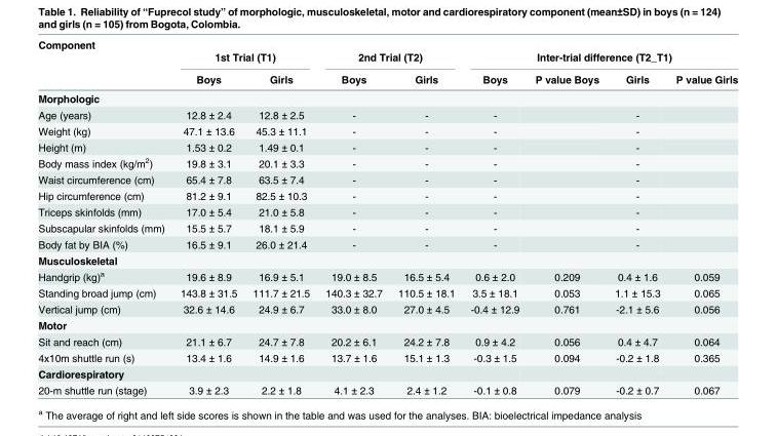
<table><thead><tr><td rowspan="3">Component</td><td></td><td></td><td></td><td></td><td></td><td></td><td></td><td></td></tr><tr><td colspan="2">1st Trial (T1)</td><td colspan="2">2nd Trial (T2)</td><td colspan="4">Inter-trial difference (T2_T1)</td></tr><tr><td>Boys</td><td>Girls</td><td>Boys</td><td>Girls</td><td>Boys</td><td>P value Boys</td><td>Girls</td><td>P value Girls</td></tr></thead><tbody><tr><td colspan="9">Morphologic</td></tr><tr><td>Age (years)</td><td>12.8 ± 2.4</td><td>12.8 ± 2.5</td><td>-</td><td>-</td><td>-</td><td></td><td>-</td><td></td></tr><tr><td>Weight (kg)</td><td>47.1 ± 13.6</td><td>45.3 ± 11.1</td><td>-</td><td>-</td><td>-</td><td></td><td>-</td><td></td></tr><tr><td>Height (m)</td><td>1.53 ± 0.2</td><td>1.49 ± 0.1</td><td>-</td><td>-</td><td>-</td><td></td><td>-</td><td></td></tr><tr><td>Body mass index (kg/m<sup>2</sup>)</td><td>19.8 ± 3.1</td><td>20.1 ± 3.3</td><td>-</td><td>-</td><td>-</td><td></td><td>-</td><td></td></tr><tr><td>Waist circumference (cm)</td><td>65.4 ± 7.8</td><td>63.5 ± 7.4</td><td>-</td><td>-</td><td>-</td><td></td><td>-</td><td></td></tr><tr><td>Hip circumference (cm)</td><td>81.2 ± 9.1</td><td>82.5 ± 10.3</td><td>-</td><td>-</td><td>-</td><td></td><td>-</td><td></td></tr><tr><td>Triceps skinfolds (mm)</td><td>17.0 ± 5.4</td><td>21.0 ± 5.8</td><td>-</td><td>-</td><td>-</td><td></td><td>-</td><td></td></tr><tr><td>Subscapular skinfolds (mm)</td><td>15.5 ± 5.7</td><td>18.1 ± 5.9</td><td>-</td><td>-</td><td>-</td><td></td><td>-</td><td></td></tr><tr><td>Body fat by BIA (%)</td><td>16.5 ± 9.1</td><td>26.0 ± 21.4</td><td>-</td><td>-</td><td>-</td><td></td><td>-</td><td></td></tr><tr><td colspan="9">Musculoskeletal</td></tr><tr><td>Handgrip (kg)<sup>a</sup></td><td>19.6 ± 8.9</td><td>16.9 ± 5.1</td><td>19.0 ± 8.5</td><td>16.5 ± 5.4</td><td>0.6 ± 2.0</td><td>0.209</td><td>0.4 ± 1.6</td><td>0.059</td></tr><tr><td>Standing broad jump (cm)</td><td>143.8 ± 31.5</td><td>111.7 ± 21.5</td><td>140.3 ± 32.7</td><td>110.5 ± 18.1</td><td>3.5 ± 18.1</td><td>0.053</td><td>1.1 ± 15.3</td><td>0.065</td></tr><tr><td>Vertical jump (cm)</td><td>32.6 ± 14.6</td><td>24.9 ± 6.7</td><td>33.0 ± 8.0</td><td>27.0 ± 4.5</td><td>-0.4 ± 12.9</td><td>0.761</td><td>-2.1 ± 5.6</td><td>0.056</td></tr><tr><td colspan="9">Motor</td></tr><tr><td>Sit and reach (cm)</td><td>21.1 ± 6.7</td><td>24.7 ± 7.8</td><td>20.2 ± 6.1</td><td>24.2 ± 7.8</td><td>0.9 ± 4.2</td><td>0.056</td><td>0.4 ± 4.7</td><td>0.064</td></tr><tr><td>4x10m shuttle run (s)</td><td>13.4 ± 1.6</td><td>14.9 ± 1.6</td><td>13.7 ± 1.6</td><td>15.1 ± 1.3</td><td>-0.3 ± 1.5</td><td>0.094</td><td>-0.2 ± 1.8</td><td>0.365</td></tr><tr><td colspan="9">Cardiorespiratory</td></tr><tr><td>20-m shuttle run (stage)</td><td>3.9 ± 2.3</td><td>2.2 ± 1.8</td><td>4.1 ± 2.3</td><td>2.4 ± 1.2</td><td>-0.1 ± 0.8</td><td>0.079</td><td>-0.2 ± 0.7</td><td>0.067</td></tr></tbody></table>